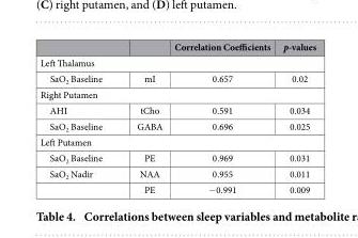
<table><thead><tr><td></td><td></td><td>Correlation Coefficients</td><td>p-values</td></tr></thead><tbody><tr><td colspan="4">Left Thalamus</td></tr><tr><td>SaO<sub>2</sub> Baseline</td><td>mI</td><td>0.657</td><td>0.02</td></tr><tr><td colspan="4">Right Putamen</td></tr><tr><td>AHI</td><td>tCho</td><td>0.591</td><td>0.034</td></tr><tr><td>SaO<sub>2</sub> Baseline</td><td>GABA</td><td>0.696</td><td>0.025</td></tr><tr><td colspan="4">Left Putamen</td></tr><tr><td>SaO<sub>2</sub> Baseline</td><td>PE</td><td>0.969</td><td>0.031</td></tr><tr><td rowspan="2">SaO<sub>2</sub> Nadir</td><td>NAA</td><td>0.955</td><td>0.011</td></tr><tr><td>PE</td><td>− 0.991</td><td>0.009</td></tr></tbody></table>